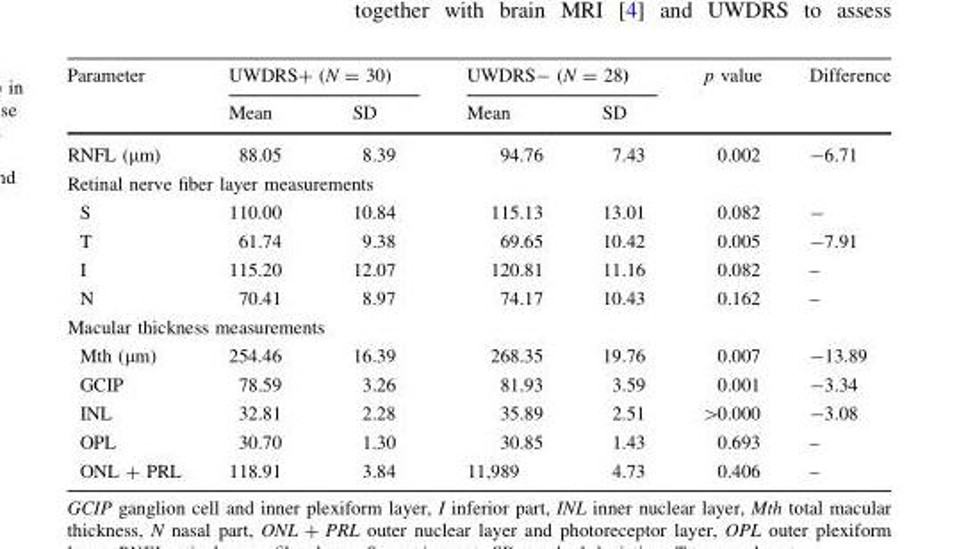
<table><thead><tr><td rowspan="2">Parameter</td><td colspan="2">UWDRS+ (N = 30)</td><td colspan="2">UWDRS- (N = 28)</td><td rowspan="2">p value</td><td rowspan="2">Difference</td></tr><tr><td>Mean</td><td>SD</td><td>Mean</td><td>SD</td></tr></thead><tbody><tr><td>RNFL (µm)</td><td>88.05</td><td>8.39</td><td>94.76</td><td>7.43</td><td>0.002</td><td>-6.71</td></tr><tr><td colspan="7">Retinal nerve fiber layer measurements</td></tr><tr><td>S</td><td>110.00</td><td>10.84</td><td>115.13</td><td>13.01</td><td>0.082</td><td>-</td></tr><tr><td>T</td><td>61.74</td><td>9.38</td><td>69.65</td><td>10.42</td><td>0.005</td><td>-7.91</td></tr><tr><td>I</td><td>115.20</td><td>12.07</td><td>120.81</td><td>11.16</td><td>0.082</td><td>–</td></tr><tr><td>N</td><td>70.41</td><td>8.97</td><td>74.17</td><td>10.43</td><td>0.162</td><td>–</td></tr><tr><td colspan="7">Macular thickness measurements</td></tr><tr><td>Mth (µm)</td><td>254.46</td><td>16.39</td><td>268.35</td><td>19.76</td><td>0.007</td><td>-13.89</td></tr><tr><td>GCIP</td><td>78.59</td><td>3.26</td><td>81.93</td><td>3.59</td><td>0.001</td><td>-3.34</td></tr><tr><td>INL</td><td>32.81</td><td>2.28</td><td>35.89</td><td>2.51</td><td>&gt;0.000</td><td>-3.08</td></tr><tr><td>OPL</td><td>30.70</td><td>1.30</td><td>30.85</td><td>1.43</td><td>0.693</td><td>–</td></tr><tr><td>ONL + PRL</td><td>118.91</td><td>3.84</td><td>11,989</td><td>4.73</td><td>0.406</td><td>–</td></tr></tbody></table>